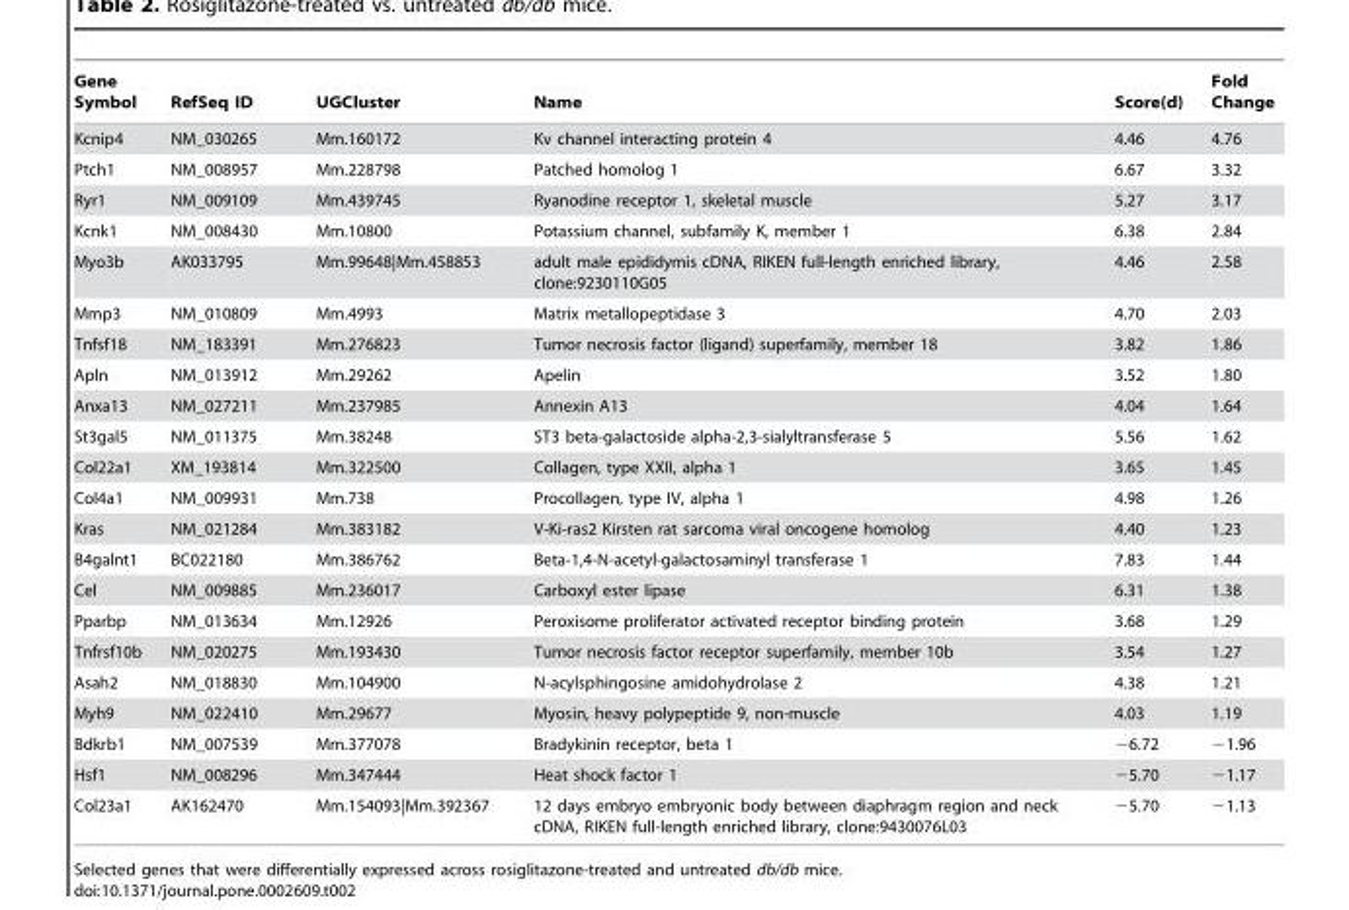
<table><thead><tr><td>Gene Symbol</td><td>RefSeq ID</td><td>UGCluster</td><td>Name</td><td>Score(d)</td><td>Fold Change</td></tr></thead><tbody><tr><td>Kcnip4</td><td>NM_030265</td><td>Mm.160172</td><td>Kv channel interacting protein 4</td><td>4.46</td><td>4.76</td></tr><tr><td>Ptch1</td><td>NM_008957</td><td>Mm.228798</td><td>Patched homolog 1</td><td>6.67</td><td>3.32</td></tr><tr><td>Ryr1</td><td>NM_009109</td><td>Mm.439745</td><td>Ryanodine receptor 1, skeletal muscle</td><td>5.27</td><td>3.17</td></tr><tr><td>Kcnk1</td><td>NM_008430</td><td>Mm.10800</td><td>Potassium channel, subfamily K, member 1</td><td>6.38</td><td>2.84</td></tr><tr><td>Myo3b</td><td>AK033795</td><td>Mm.99648|Mm.458853</td><td>adult male epididymis cDNA, RIKEN full-length enriched library, clone:9230110G05</td><td>4.46</td><td>2.58</td></tr><tr><td>Mmp3</td><td>NM_010809</td><td>Mm.4993</td><td>Matrix metallopeptidase 3</td><td>4.70</td><td>2.03</td></tr><tr><td>Tnfsf18</td><td>NM_183391</td><td>Mm.276823</td><td>Tumor necrosis factor (ligand) superfamily, member 18</td><td>3.82</td><td>1.86</td></tr><tr><td>Apln</td><td>NM_013912</td><td>Mm.29262</td><td>Apelin</td><td>3.52</td><td>1.80</td></tr><tr><td>Anxa13</td><td>NM_027211</td><td>Mm.237985</td><td>Annexin A13</td><td>4.04</td><td>1.64</td></tr><tr><td>St3gal5</td><td>NM_011375</td><td>Mm.38248</td><td>ST3 beta-galactoside alpha-2,3-sialyltransferase 5</td><td>5.56</td><td>1.62</td></tr><tr><td>Col22a1</td><td>XM_193814</td><td>Mm.322500</td><td>Collagen, type XXII, alpha 1</td><td>3.65</td><td>1.45</td></tr><tr><td>Col4a1</td><td>NM_009931</td><td>Mm.738</td><td>Procollagen, type IV, alpha 1</td><td>4.98</td><td>1.26</td></tr><tr><td>Kras</td><td>NM_021284</td><td>Mm.383182</td><td>V-Ki-ras2 Kirsten rat sarcoma viral oncogene homolog</td><td>4.40</td><td>1.23</td></tr><tr><td>B4galnt1</td><td>BC022180</td><td>Mm.386762</td><td>Beta-1,4-N-acetyl-galactosaminyl transferase 1</td><td>7.83</td><td>1.44</td></tr><tr><td>Cel</td><td>NM_009885</td><td>Mm.236017</td><td>Carboxyl ester lipase</td><td>6.31</td><td>1.38</td></tr><tr><td>Pparbp</td><td>NM_013634</td><td>Mm.12926</td><td>Peroxisome proliferator activated receptor binding protein</td><td>3.68</td><td>1.29</td></tr><tr><td>Tnfrsf10b</td><td>NM_020275</td><td>Mm.193430</td><td>Tumor necrosis factor receptor superfamily, member 10b</td><td>3.54</td><td>1.27</td></tr><tr><td>Asah2</td><td>NM_018830</td><td>Mm.104900</td><td>N-acylsphingosine amidohydrolase 2</td><td>4.38</td><td>1.21</td></tr><tr><td>Myh9</td><td>NM_022410</td><td>Mm.29677</td><td>Myosin, heavy polypeptide 9, non-muscle</td><td>4.03</td><td>1.19</td></tr><tr><td>Bdkrb1</td><td>NM_007539</td><td>Mm.377078</td><td>Bradykinin receptor, beta 1</td><td>−6.72</td><td>−1.96</td></tr><tr><td>Hsf1</td><td>NM_008296</td><td>Mm.347444</td><td>Heat shock factor 1</td><td>−5.70</td><td>−1.17</td></tr><tr><td>Col23a1</td><td>AK162470</td><td>Mm.154093|Mm.392367</td><td>12 days embryo embryonic body between diaphragm region and neck cDNA, RIKEN full-length enriched library, clone:9430076L03</td><td>−5.70</td><td>−1.13</td></tr></tbody></table>